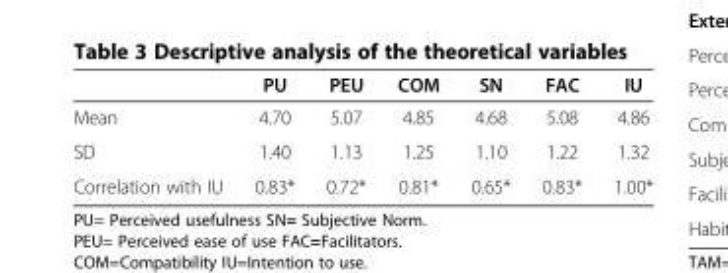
<table><thead><tr><td></td><td>PU</td><td>PEU</td><td>COM</td><td>SN</td><td>FAC</td><td>IU</td></tr></thead><tbody><tr><td>Mean</td><td>4.70</td><td>5.07</td><td>4.85</td><td>4.68</td><td>5.08</td><td>4.86</td></tr><tr><td>SD</td><td>1.40</td><td>1.13</td><td>1.25</td><td>1.10</td><td>1.22</td><td>1.32</td></tr><tr><td>Correlation with IU</td><td>0.83*</td><td>0.72*</td><td>0.81*</td><td>0.65*</td><td>0.83*</td><td>1.00*</td></tr></tbody></table>